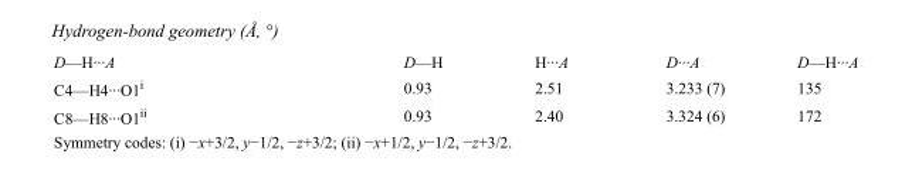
<table><tbody><tr><td>D—H···A</td><td>D—H</td><td>H···A</td><td>D···A</td><td>D—H···A</td></tr><tr><td>C4—H4···O1<sup>i</sup></td><td>0.93</td><td>2.51</td><td>3.233 (7)</td><td>135</td></tr><tr><td>C8—H8···O1<sup>ii</sup></td><td>0.93</td><td>2.40</td><td>3.324 (6)</td><td>172</td></tr></tbody></table>